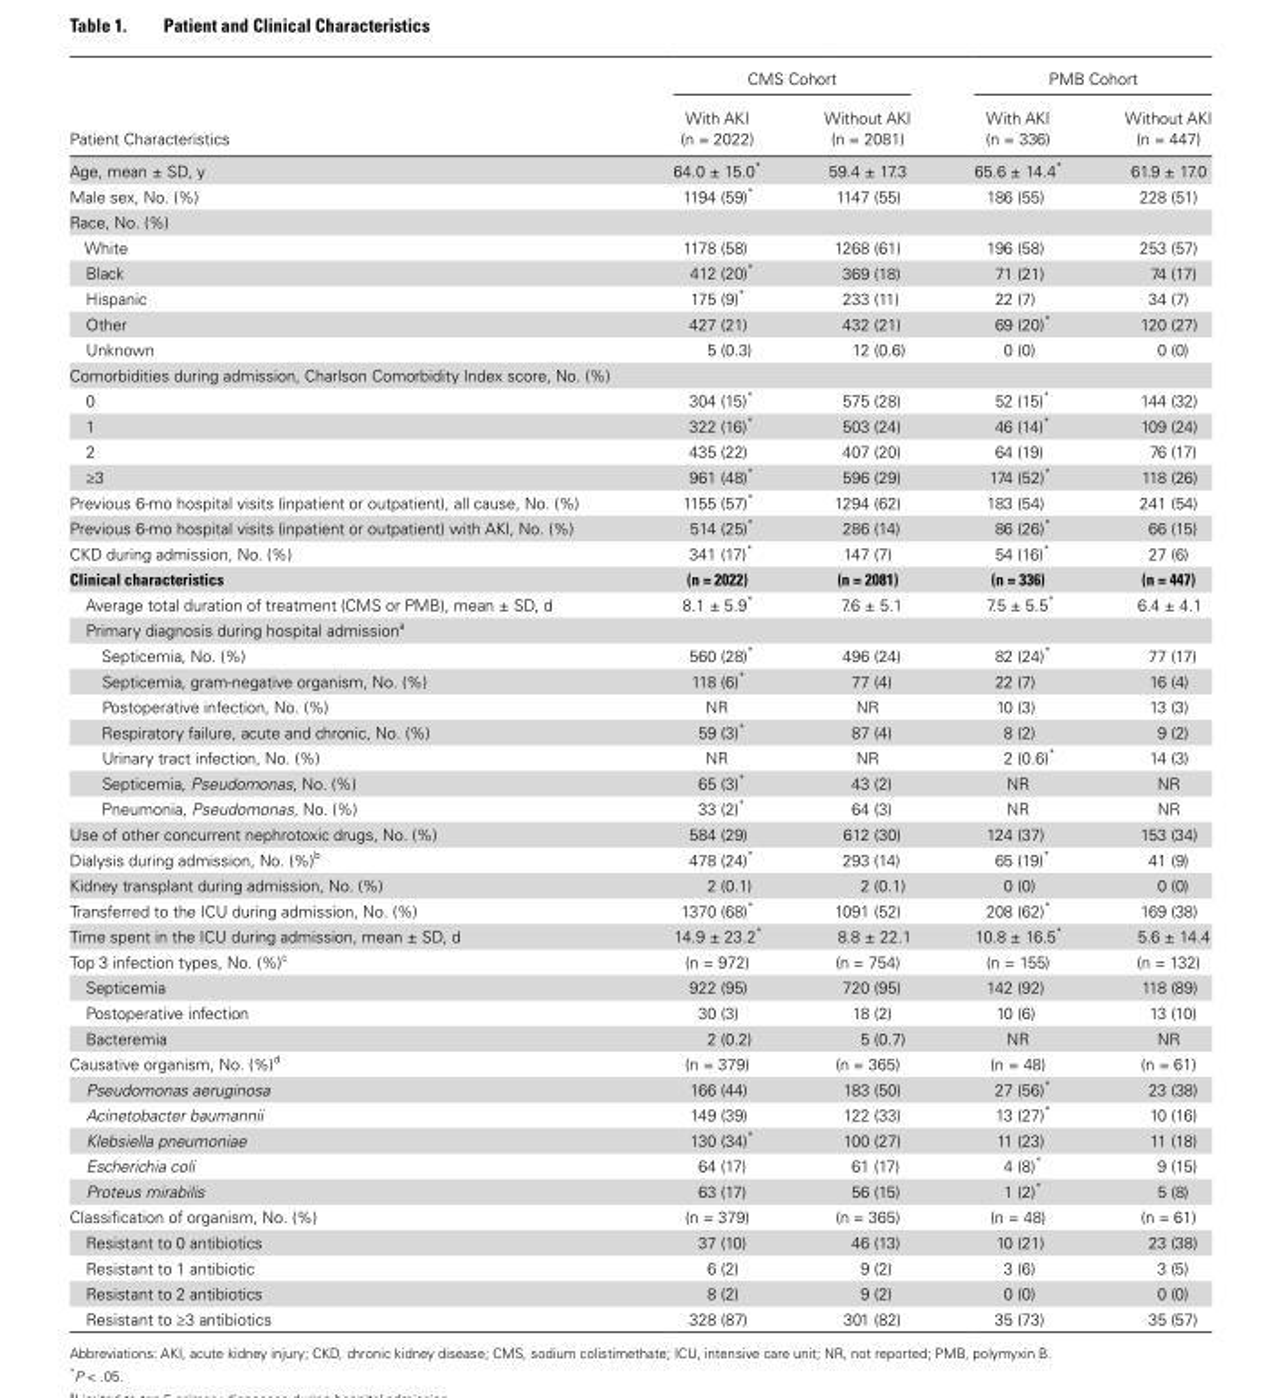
<table><thead><tr><td rowspan="2">Patient Characteristics</td><td colspan="2">CMS Cohort</td><td colspan="2">PMB Cohort</td></tr><tr><td>With AKI (n = 2022)</td><td>Without AKI (n = 2081)</td><td>With AKI (n = 336)</td><td>Without AKI (n = 447)</td></tr></thead><tbody><tr><td>Age, mean ± SD, y</td><td>64.0 ± 15.0*</td><td>59.4 ± 17.3</td><td>65.6 ± 14.4*</td><td>61.9 ± 17.0</td></tr><tr><td>Male sex, No. (%)</td><td>1194 (59)*</td><td>1147 (55)</td><td>186 (55)</td><td>228 (51)</td></tr><tr><td colspan="5">Race, No. (%)</td></tr><tr><td>White</td><td>1178 (58)</td><td>1268 (61)</td><td>196 (58)</td><td>253 (57)</td></tr><tr><td>Black</td><td>412 (20)*</td><td>369 (18)</td><td>71 (21)</td><td>74 (17)</td></tr><tr><td>Hispanic</td><td>175 (9)*</td><td>233 (11)</td><td>22 (7)</td><td>34 (7)</td></tr><tr><td>Other</td><td>427 (21)</td><td>432 (21)</td><td>69 (20)*</td><td>120 (27)</td></tr><tr><td>Unknown</td><td>5 (0.3)</td><td>12 (0.6)</td><td>0 (0)</td><td>0 (0)</td></tr><tr><td colspan="5">Comorbidities during admission, Charlson Comorbidity Index score, No. (%)</td></tr><tr><td>0</td><td>304 (15)*</td><td>575 (28)</td><td>52 (15)*</td><td>144 (32)</td></tr><tr><td>1</td><td>322 (16)*</td><td>503 (24)</td><td>46 (14)*</td><td>109 (24)</td></tr><tr><td>2</td><td>435 (22)</td><td>407 (20)</td><td>64 (19)</td><td>76 (17)</td></tr><tr><td>≥3</td><td>961 (48)*</td><td>596 (29)</td><td>174 (52)*</td><td>118 (26)</td></tr><tr><td>Previous 6-mo hospital visits (inpatient or outpatient), all cause, No. (%)</td><td>1155 (57)*</td><td>1294 (62)</td><td>183 (54)</td><td>241 (54)</td></tr><tr><td>Previous 6-mo hospital visits (inpatient or outpatient) with AKI, No. (%)</td><td>514 (25)*</td><td>286 (14)</td><td>86 (26)*</td><td>66 (15)</td></tr><tr><td>CKD during admission, No. (%)</td><td>341 (17)*</td><td>147 (7)</td><td>54 (16)*</td><td>27 (6)</td></tr><tr><td>Clinical characteristics</td><td>(n = 2022)</td><td>(n = 2081)</td><td>(n = 336)</td><td>(n = 447)</td></tr><tr><td>Average total duration of treatment (CMS or PMB), mean ± SD, d</td><td>8.1 ± 5.9*</td><td>7.6 ± 5.1</td><td>7.5 ± 5.5*</td><td>6.4 ± 4.1</td></tr><tr><td colspan="5">Primary diagnosis during hospital admission<sup>a</sup></td></tr><tr><td>Septicemia, No. (%)</td><td>560 (28)*</td><td>496 (24)</td><td>82 (24)*</td><td>77 (17)</td></tr><tr><td>Septicemia, gram-negative organism, No. (%)</td><td>118 (6)*</td><td>77 (4)</td><td>22 (7)</td><td>16 (4)</td></tr><tr><td>Postoperative infection, No. (%)</td><td>NR</td><td>NR</td><td>10 (3)</td><td>13 (3)</td></tr><tr><td>Respiratory failure, acute and chronic, No. (%)</td><td>59 (3)*</td><td>87 (4)</td><td>8 (2)</td><td>9 (2)</td></tr><tr><td>Urinary tract infection, No. (%)</td><td>NR</td><td>NR</td><td>2 (0.6)*</td><td>14 (3)</td></tr><tr><td>Septicemia, Pseudomonas, No. (%)</td><td>65 (3)*</td><td>43 (2)</td><td>NR</td><td>NR</td></tr><tr><td>Pneumonia, Pseudomonas, No. (%)</td><td>33 (2)*</td><td>64 (3)</td><td>NR</td><td>NR</td></tr><tr><td>Use of other concurrent nephrotoxic drugs, No. (%)</td><td>584 (29)</td><td>612 (30)</td><td>124 (37)</td><td>153 (34)</td></tr><tr><td>Dialysis during admission, No. (%)<sup>b</sup></td><td>478 (24)*</td><td>293 (14)</td><td>65 (19)*</td><td>41 (9)</td></tr><tr><td>Kidney transplant during admission, No. (%)</td><td>2 (0.1)</td><td>2 (0.1)</td><td>0 (0)</td><td>0 (0)</td></tr><tr><td>Transferred to the ICU during admission, No. (%)</td><td>1370 (68)*</td><td>1091 (52)</td><td>208 (62)*</td><td>169 (38)</td></tr><tr><td>Time spent in the ICU during admission, mean ± SD, d</td><td>14.9 ± 23.2*</td><td>8.8 ± 22.1</td><td>10.8 ± 16.5*</td><td>5.6 ± 14.4</td></tr><tr><td>Top 3 infection types, No. (%)<sup>c</sup></td><td>(n = 972)</td><td>(n = 754)</td><td>(n = 155)</td><td>(n = 132)</td></tr><tr><td>Septicemia</td><td>922 (95)</td><td>720 (95)</td><td>142 (92)</td><td>118 (89)</td></tr><tr><td>Postoperative infection</td><td>30 (3)</td><td>18 (2)</td><td>10 (6)</td><td>13 (10)</td></tr><tr><td>Bacteremia</td><td>2 (0.2)</td><td>5 (0.7)</td><td>NR</td><td>NR</td></tr><tr><td>Causative organism, No. (%)<sup>d</sup></td><td>(n = 379)</td><td>(n = 365)</td><td>(n = 48)</td><td>(n = 61)</td></tr><tr><td>Pseudomonas aeruginosa</td><td>166 (44)</td><td>183 (50)</td><td>27 (56)*</td><td>23 (38)</td></tr><tr><td>Acinetobacter baumannii</td><td>149 (39)</td><td>122 (33)</td><td>13 (27)*</td><td>10 (16)</td></tr><tr><td>Klebsiella pneumoniae</td><td>130 (34)*</td><td>100 (27)</td><td>11 (23)</td><td>11 (18)</td></tr><tr><td>Escherichia coli</td><td>64 (17)</td><td>61 (17)</td><td>4 (8)*</td><td>9 (15)</td></tr><tr><td>Proteus mirabilis</td><td>63 (17)</td><td>56 (15)</td><td>1 (2)*</td><td>5 (8)</td></tr><tr><td>Classification of organism, No. (%)</td><td>(n = 379)</td><td>(n = 365)</td><td>(n = 48)</td><td>(n = 61)</td></tr><tr><td>Resistant to 0 antibiotics</td><td>37 (10)</td><td>46 (13)</td><td>10 (21)</td><td>23 (38)</td></tr><tr><td>Resistant to 1 antibiotic</td><td>6 (2)</td><td>9 (2)</td><td>3 (6)</td><td>3 (5)</td></tr><tr><td>Resistant to 2 antibiotics</td><td>8 (2)</td><td>9 (2)</td><td>0 (0)</td><td>0 (0)</td></tr><tr><td>Resistant to ≥3 antibiotics</td><td>328 (87)</td><td>301 (82)</td><td>35 (73)</td><td>35 (57)</td></tr></tbody></table>